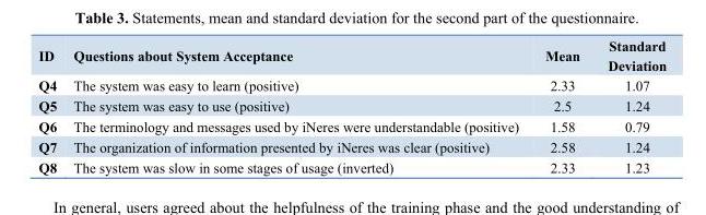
<table><thead><tr><td>ID</td><td>Questions about System Acceptance</td><td>Mean</td><td>Standard Deviation</td></tr></thead><tbody><tr><td>Q4</td><td>The system was easy to learn (positive)</td><td>2.33</td><td>1.07</td></tr><tr><td>Q5</td><td>The system was easy to use (positive)</td><td>2.5</td><td>1.24</td></tr><tr><td>Q6</td><td>The terminology and messages used by iNeres were understandable (positive)</td><td>1.58</td><td>0.79</td></tr><tr><td>Q7</td><td>The organization of information presented by iNeres was clear (positive)</td><td>2.58</td><td>1.24</td></tr><tr><td>Q8</td><td>The system was slow in some stages of usage (inverted)</td><td>2.33</td><td>1.23</td></tr></tbody></table>